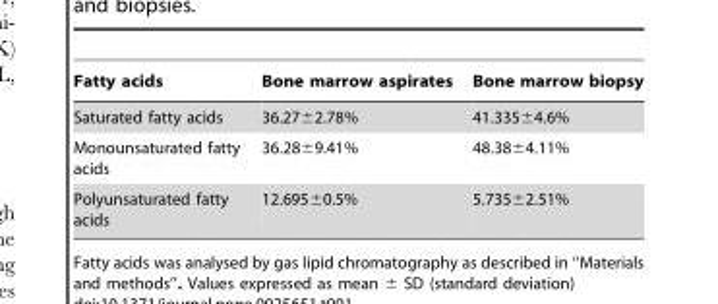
<table><thead><tr><td>Fatty acids</td><td>Bone marrow aspirates</td><td>Bone marrow biopsy</td></tr></thead><tbody><tr><td>Saturated fatty acids</td><td>36.27±2.78%</td><td>41.335±4.6%</td></tr><tr><td>Monounsaturated fatty acids</td><td>36.28±9.41%</td><td>48.38±4.11%</td></tr><tr><td>Polyunsaturated fatty acids</td><td>12.695±0.5%</td><td>5.735±2.51%</td></tr></tbody></table>